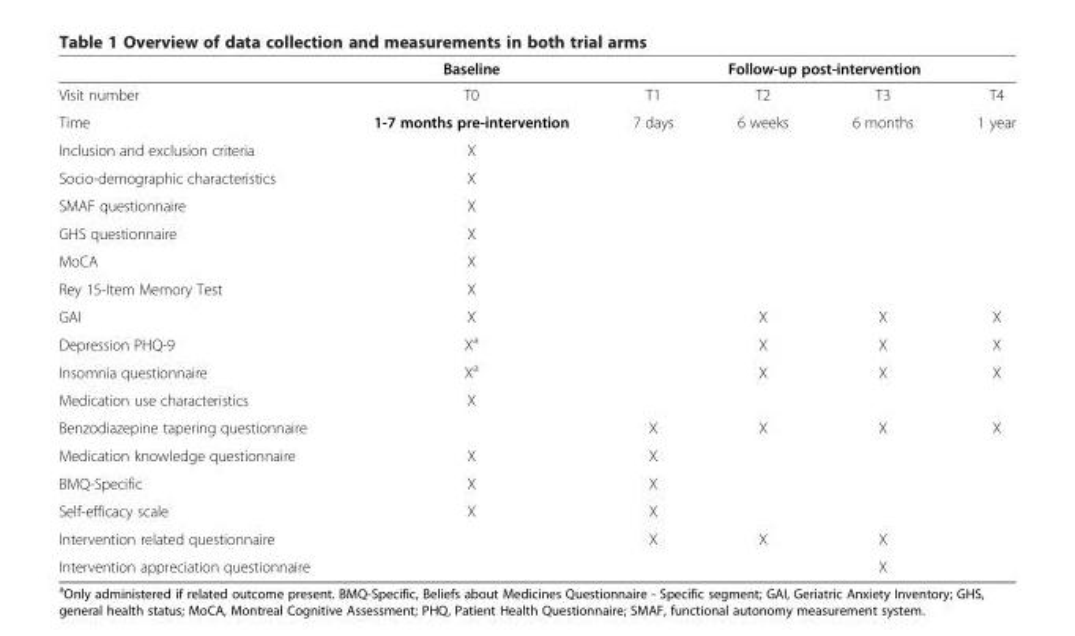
<table><thead><tr><td rowspan="2">Visit number</td><td rowspan="2">Baseline T0</td><td colspan="4">Follow-up post-intervention</td></tr><tr><td>T1</td><td>T2</td><td>T3</td><td>T4</td></tr></thead><tbody><tr><td>Time</td><td>1-7 months pre-intervention</td><td>7 days</td><td>6 weeks</td><td>6 months</td><td>1 year</td></tr><tr><td>Inclusion and exclusion criteria</td><td>X</td><td></td><td></td><td></td><td></td></tr><tr><td>Socio-demographic characteristics</td><td>X</td><td></td><td></td><td></td><td></td></tr><tr><td>SMAF questionnaire</td><td>X</td><td></td><td></td><td></td><td></td></tr><tr><td>GHS questionnaire</td><td>X</td><td></td><td></td><td></td><td></td></tr><tr><td>MoCA</td><td>X</td><td></td><td></td><td></td><td></td></tr><tr><td>Rey 15-Item Memory Test</td><td>X</td><td></td><td></td><td></td><td></td></tr><tr><td>GAI</td><td>X</td><td></td><td>X</td><td>X</td><td>X</td></tr><tr><td>Depression PHQ-9</td><td>X<sup>a</sup></td><td></td><td>X</td><td>X</td><td>X</td></tr><tr><td>Insomnia questionnaire</td><td>X<sup>a</sup></td><td></td><td>X</td><td>X</td><td>X</td></tr><tr><td>Medication use characteristics</td><td>X</td><td></td><td></td><td></td><td></td></tr><tr><td>Benzodiazepine tapering questionnaire</td><td></td><td>X</td><td>X</td><td>X</td><td>X</td></tr><tr><td>Medication knowledge questionnaire</td><td>X</td><td>X</td><td></td><td></td><td></td></tr><tr><td>BMQ-Specific</td><td>X</td><td>X</td><td></td><td></td><td></td></tr><tr><td>Self-efficacy scale</td><td>X</td><td>X</td><td></td><td></td><td></td></tr><tr><td>Intervention related questionnaire</td><td></td><td>X</td><td>X</td><td>X</td><td></td></tr><tr><td>Intervention appreciation questionnaire</td><td></td><td></td><td></td><td>X</td><td></td></tr></tbody></table>